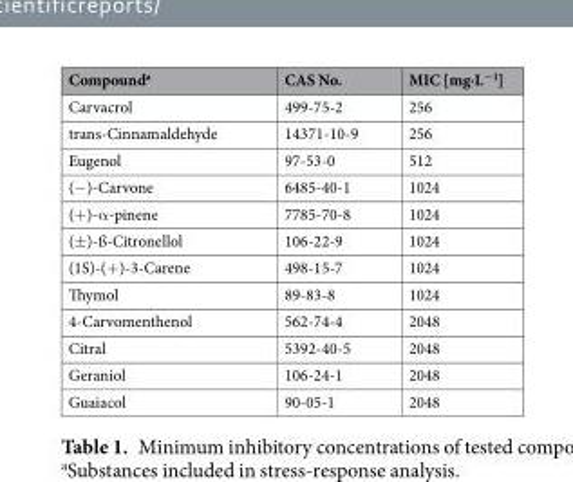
<table><thead><tr><td>Compound<sup>a</sup></td><td>CAS No.</td><td>MIC [mg·L<sup>−1</sup>]</td></tr></thead><tbody><tr><td>Carvacrol</td><td>499-75-2</td><td>256</td></tr><tr><td>trans-Cinnamaldehyde</td><td>14371-10-9</td><td>256</td></tr><tr><td>Eugenol</td><td>97-53-0</td><td>512</td></tr><tr><td>(−)-Carvone</td><td>6485-40-1</td><td>1024</td></tr><tr><td>(+)-α-pinene</td><td>7785-70-8</td><td>1024</td></tr><tr><td>(±)-ß-Citronellol</td><td>106-22-9</td><td>1024</td></tr><tr><td>(1S)-(+)-3-Carene</td><td>498-15-7</td><td>1024</td></tr><tr><td>Thymol</td><td>89-83-8</td><td>1024</td></tr><tr><td>4-Carvomenthenol</td><td>562-74-4</td><td>2048</td></tr><tr><td>Citral</td><td>5392-40-5</td><td>2048</td></tr><tr><td>Geraniol</td><td>106-24-1</td><td>2048</td></tr><tr><td>Guaiacol</td><td>90-05-1</td><td>2048</td></tr></tbody></table>